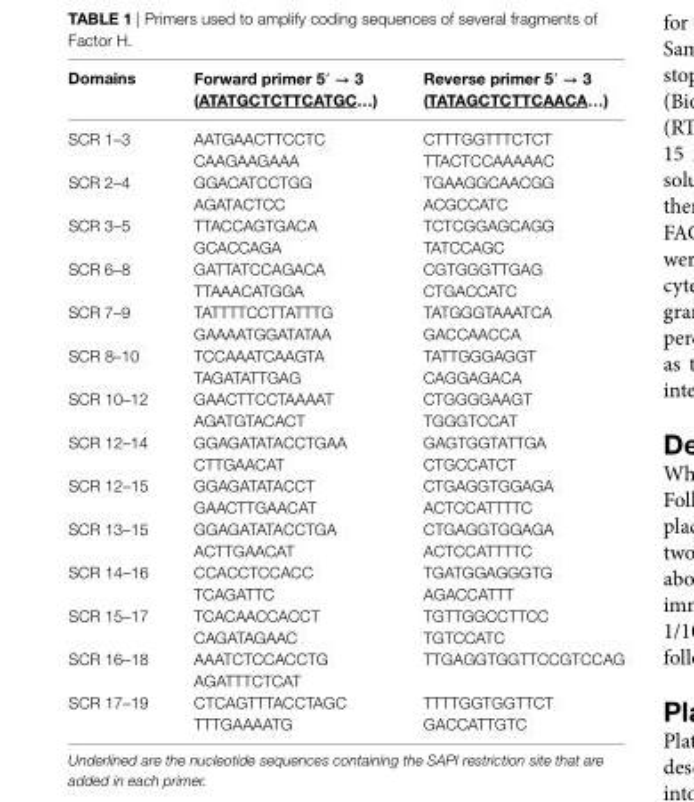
<table><thead><tr><td>Domains</td><td>Forward primer 5′ → 3 (aTaTgcTcTTcaTgc…)</td><td>reverse primer 5′ → 3 (TaTagcTcTTcaaca…)</td></tr></thead><tbody><tr><td>SCR 1–3</td><td>AATGAACTTCCTC CAAGAAGAAA</td><td>CTTTGGTTTCTCT TTACTCCAAAAAC</td></tr><tr><td>SCR 2–4</td><td>GGACATCCTGG AGATACTCC</td><td>TGAAGGCAACGG ACGCCATC</td></tr><tr><td>SCR 3–5</td><td>TTACCAGTGACA GCACCAGA</td><td>TCTCGGAGCAGG TATCCAGC</td></tr><tr><td>SCR 6–8</td><td>GATTATCCAGACA TTAAACATGGA</td><td>CGTGGGTTGAG CTGACCATC</td></tr><tr><td>SCR 7–9</td><td>TATTTTCCTTATTTG GAAAATGGATATAA</td><td>TATGGGTAAATCA GACCAACCA</td></tr><tr><td>SCR 8–10</td><td>TCCAAATCAAGTA TAGATATTGAG</td><td>TATTGGGAGGT CAGGAGACA</td></tr><tr><td>SCR 10–12</td><td>GAACTTCCTAAAAT AGATGTACACT</td><td>CTGGGGAAGT TGGGTCCAT</td></tr><tr><td>SCR 12–14</td><td>GGAGATATACCTGAA CTTGAACAT</td><td>GAGTGGTATTGA CTGCCATCT</td></tr><tr><td>SCR 12–15</td><td>GGAGATATACCT GAACTTGAACAT</td><td>CTGAGGTGGAGA ACTCCATTTTC</td></tr><tr><td>SCR 13–15</td><td>GGAGATATACCTGA ACTTGAACAT</td><td>CTGAGGTGGAGA ACTCCATTTTC</td></tr><tr><td>SCR 14–16</td><td>CCACCTCCACC TCAGATTC</td><td>TGATGGAGGGTG AGACCATTT</td></tr><tr><td>SCR 15–17</td><td>TCACAACCACCT CAGATAGAAC</td><td>TGTTGGCCTTCC TGTCCATC</td></tr><tr><td>SCR 16–18</td><td>AAATCTCCACCTG AGATTTCTCAT</td><td>TTGAGGTGGTTCCGTCCAG</td></tr><tr><td>SCR 17–19</td><td>CTCAGTTTACCTAGC TTTGAAAATG</td><td>TTTTGGTGGTTCT GACCATTGTC</td></tr></tbody></table>